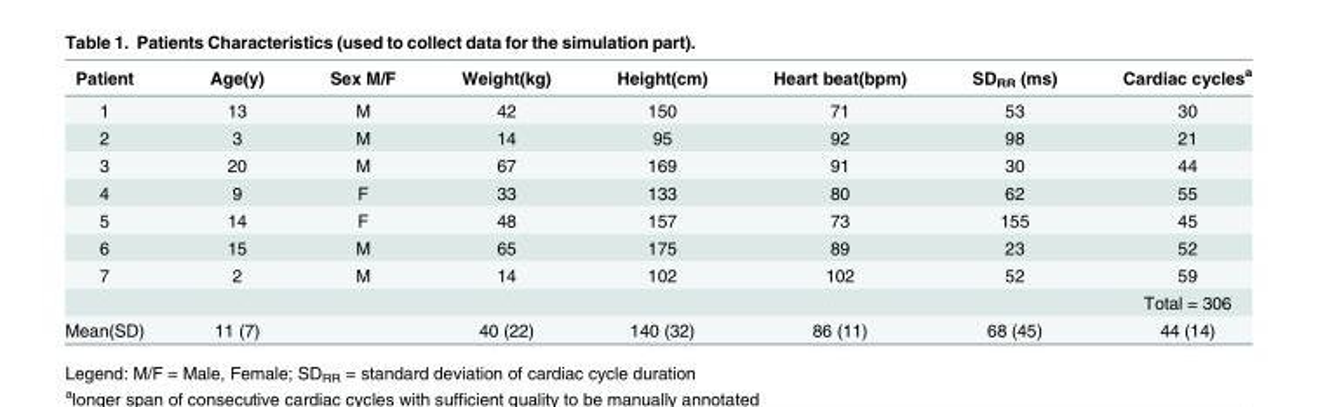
<table><thead><tr><td>Patient</td><td>Age(y)</td><td>Sex M/F</td><td>Weight(kg)</td><td>Height(cm)</td><td>Heart beat(bpm)</td><td>SD<sub>RR</sub> (ms)</td><td>Cardiac cycles<sup>a</sup></td></tr></thead><tbody><tr><td>1</td><td>13</td><td>M</td><td>42</td><td>150</td><td>71</td><td>53</td><td>30</td></tr><tr><td>2</td><td>3</td><td>M</td><td>14</td><td>95</td><td>92</td><td>98</td><td>21</td></tr><tr><td>3</td><td>20</td><td>M</td><td>67</td><td>169</td><td>91</td><td>30</td><td>44</td></tr><tr><td>4</td><td>9</td><td>F</td><td>33</td><td>133</td><td>80</td><td>62</td><td>55</td></tr><tr><td>5</td><td>14</td><td>F</td><td>48</td><td>157</td><td>73</td><td>155</td><td>45</td></tr><tr><td>6</td><td>15</td><td>M</td><td>65</td><td>175</td><td>89</td><td>23</td><td>52</td></tr><tr><td rowspan="2">7</td><td>2</td><td>M</td><td>14</td><td>102</td><td>102</td><td>52</td><td>59</td></tr><tr><td></td><td></td><td></td><td></td><td></td><td></td><td>Total = 306</td></tr><tr><td>Mean(SD)</td><td>11 (7)</td><td></td><td>40 (22)</td><td>140 (32)</td><td>86 (11)</td><td>68 (45)</td><td>44 (14)</td></tr></tbody></table>